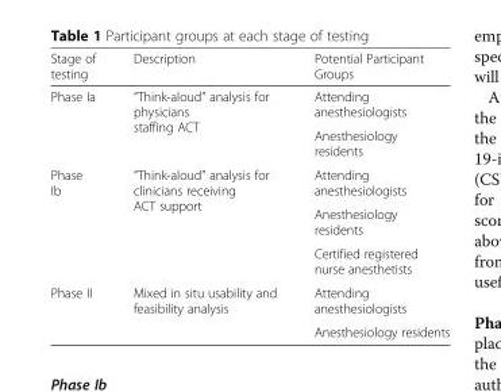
<table><thead><tr><td>Stage of testing</td><td>Description</td><td>Potential Participant Groups</td></tr></thead><tbody><tr><td rowspan="2">Phase Ia</td><td rowspan="2">“Think-aloud” analysis for physicians staffing ACT</td><td>Attending anesthesiologists</td></tr><tr><td>Anesthesiology residents</td></tr><tr><td rowspan="3">Phase Ib</td><td rowspan="3">“Think-aloud” analysis for clinicians receiving ACT support</td><td>Attending anesthesiologists</td></tr><tr><td>Anesthesiology residents</td></tr><tr><td>Certified registered nurse anesthetists</td></tr><tr><td rowspan="2">Phase II</td><td rowspan="2">Mixed in situ usability and feasibility analysis</td><td>Attending anesthesiologists</td></tr><tr><td>Anesthesiology residents</td></tr></tbody></table>